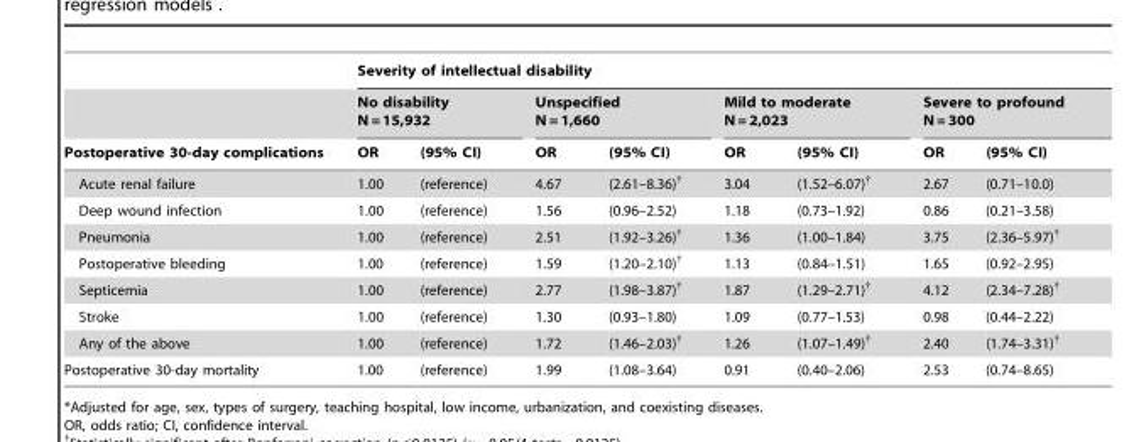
<table><thead><tr><td rowspan="3">Postoperative 30-day complications</td><td colspan="8">Severity of intellectual disability</td></tr><tr><td colspan="2">No disability N = 15,932</td><td colspan="2">Unspecified N = 1,660</td><td colspan="2">Mild to moderate N = 2,023</td><td colspan="2">Severe to profound N = 300</td></tr><tr><td>OR</td><td>(95% CI)</td><td>OR</td><td>(95% CI)</td><td>OR</td><td>(95% CI)</td><td>OR</td><td>(95% CI)</td></tr></thead><tbody><tr><td>Acute renal failure</td><td>1.00</td><td>(reference)</td><td>4.67</td><td>(2.61–8.36)†</td><td>3.04</td><td>(1.52–6.07)†</td><td>2.67</td><td>(0.71–10.0)</td></tr><tr><td>Deep wound infection</td><td>1.00</td><td>(reference)</td><td>1.56</td><td>(0.96–2.52)</td><td>1.18</td><td>(0.73–1.92)</td><td>0.86</td><td>(0.21–3.58)</td></tr><tr><td>Pneumonia</td><td>1.00</td><td>(reference)</td><td>2.51</td><td>(1.92–3.26)†</td><td>1.36</td><td>(1.00–1.84)</td><td>3.75</td><td>(2.36–5.97)†</td></tr><tr><td>Postoperative bleeding</td><td>1.00</td><td>(reference)</td><td>1.59</td><td>(1.20–2.10)†</td><td>1.13</td><td>(0.84–1.51)</td><td>1.65</td><td>(0.92–2.95)</td></tr><tr><td>Septicemia</td><td>1.00</td><td>(reference)</td><td>2.77</td><td>(1.98–3.87)†</td><td>1.87</td><td>(1.29–2.71)†</td><td>4.12</td><td>(2.34–7.28)†</td></tr><tr><td>Stroke</td><td>1.00</td><td>(reference)</td><td>1.30</td><td>(0.93–1.80)</td><td>1.09</td><td>(0.77–1.53)</td><td>0.98</td><td>(0.44–2.22)</td></tr><tr><td>Any of the above</td><td>1.00</td><td>(reference)</td><td>1.72</td><td>(1.46–2.03)†</td><td>1.26</td><td>(1.07–1.49)†</td><td>2.40</td><td>(1.74–3.31)†</td></tr><tr><td>Postoperative 30-day mortality</td><td>1.00</td><td>(reference)</td><td>1.99</td><td>(1.08–3.64)</td><td>0.91</td><td>(0.40–2.06)</td><td>2.53</td><td>(0.74–8.65)</td></tr></tbody></table>